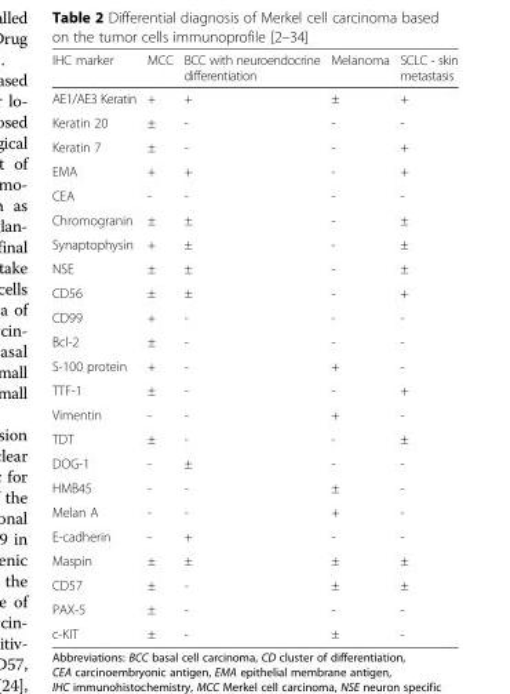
<table><thead><tr><td>IHC marker</td><td>MCC</td><td>BCC with neuroendocrine differentiation</td><td>Melanoma</td><td>SCLC - skin metastasis</td></tr></thead><tbody><tr><td>AE1/AE3 Keratin</td><td>+</td><td>+</td><td>±</td><td>+</td></tr><tr><td>Keratin 20</td><td>±</td><td>-</td><td>-</td><td>-</td></tr><tr><td>Keratin 7</td><td>±</td><td>-</td><td>-</td><td>+</td></tr><tr><td>EMA</td><td>+</td><td>+</td><td>-</td><td>+</td></tr><tr><td>CEA</td><td>-</td><td>-</td><td>-</td><td>-</td></tr><tr><td>Chromogranin</td><td>±</td><td>±</td><td>-</td><td>±</td></tr><tr><td>Synaptophysin</td><td>+</td><td>±</td><td>-</td><td>±</td></tr><tr><td>NSE</td><td>±</td><td>±</td><td>-</td><td>±</td></tr><tr><td>CD56</td><td>±</td><td>±</td><td>-</td><td>+</td></tr><tr><td>CD99</td><td>+</td><td>-</td><td>-</td><td>-</td></tr><tr><td>Bcl-2</td><td>±</td><td>-</td><td>-</td><td>-</td></tr><tr><td>S-100 protein</td><td>+</td><td>-</td><td>+</td><td>-</td></tr><tr><td>TTF-1</td><td>±</td><td>-</td><td>-</td><td>+</td></tr><tr><td>Vimentin</td><td>-</td><td>-</td><td>+</td><td>-</td></tr><tr><td>TDT</td><td>±</td><td>-</td><td>-</td><td>±</td></tr><tr><td>DOG-1</td><td>-</td><td>±</td><td>-</td><td>-</td></tr><tr><td>HMB45</td><td>-</td><td>-</td><td>±</td><td>-</td></tr><tr><td>Melan A</td><td>-</td><td>-</td><td>+</td><td>-</td></tr><tr><td>E-cadherin</td><td>-</td><td>+</td><td>-</td><td>-</td></tr><tr><td>Maspin</td><td>±</td><td>±</td><td>±</td><td>±</td></tr><tr><td>CD57</td><td>±</td><td>-</td><td>±</td><td>±</td></tr><tr><td>PAX-5</td><td>±</td><td>-</td><td>-</td><td>-</td></tr><tr><td>c-KIT</td><td>±</td><td>-</td><td>±</td><td>-</td></tr></tbody></table>